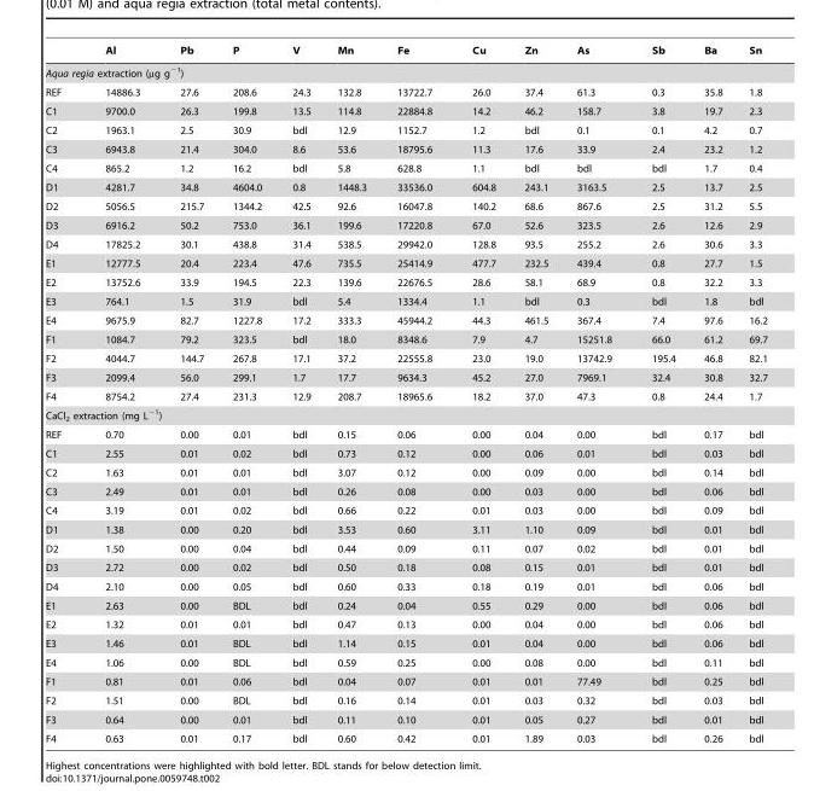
<table><thead><tr><td></td><td>Al</td><td>Pb</td><td>P</td><td>V</td><td>Mn</td><td>Fe</td><td>Cu</td><td>Zn</td><td>As</td><td>Sb</td><td>Ba</td><td>Sn</td></tr></thead><tbody><tr><td colspan="13">Aqua regia extraction (µg g<sup>−1</sup>)</td></tr><tr><td>REF</td><td>14886.3</td><td>27.6</td><td>208.6</td><td>24.3</td><td>132.8</td><td>13722.7</td><td>26.0</td><td>37.4</td><td>61.3</td><td>0.3</td><td>35.8</td><td>1.8</td></tr><tr><td>C1</td><td>9700.0</td><td>26.3</td><td>199.8</td><td>13.5</td><td>114.8</td><td>22884.8</td><td>14.2</td><td>46.2</td><td>158.7</td><td>3.8</td><td>19.7</td><td>2.3</td></tr><tr><td>C2</td><td>1963.1</td><td>2.5</td><td>30.9</td><td>bdl</td><td>12.9</td><td>1152.7</td><td>1.2</td><td>bdl</td><td>0.1</td><td>0.1</td><td>4.2</td><td>0.7</td></tr><tr><td>C3</td><td>6943.8</td><td>21.4</td><td>304.0</td><td>8.6</td><td>53.6</td><td>18795.6</td><td>11.3</td><td>17.6</td><td>33.9</td><td>2.4</td><td>23.2</td><td>1.2</td></tr><tr><td>C4</td><td>865.2</td><td>1.2</td><td>16.2</td><td>bdl</td><td>5.8</td><td>628.8</td><td>1.1</td><td>bdl</td><td>bdl</td><td>bdl</td><td>1.7</td><td>0.4</td></tr><tr><td>D1</td><td>4281.7</td><td>34.8</td><td>4604.0</td><td>0.8</td><td>1448.3</td><td>33536.0</td><td>604.8</td><td>243.1</td><td>3163.5</td><td>2.5</td><td>13.7</td><td>2.5</td></tr><tr><td>D2</td><td>5056.5</td><td>215.7</td><td>1344.2</td><td>42.5</td><td>92.6</td><td>16047.8</td><td>140.2</td><td>68.6</td><td>867.6</td><td>2.5</td><td>31.2</td><td>5.5</td></tr><tr><td>D3</td><td>6916.2</td><td>50.2</td><td>753.0</td><td>36.1</td><td>199.6</td><td>17220.8</td><td>67.0</td><td>52.6</td><td>323.5</td><td>2.6</td><td>12.6</td><td>2.9</td></tr><tr><td>D4</td><td>17825.2</td><td>30.1</td><td>438.8</td><td>31.4</td><td>538.5</td><td>29942.0</td><td>128.8</td><td>93.5</td><td>255.2</td><td>2.6</td><td>30.6</td><td>3.3</td></tr><tr><td>E1</td><td>12777.5</td><td>20.4</td><td>223.4</td><td>47.6</td><td>735.5</td><td>25414.9</td><td>477.7</td><td>232.5</td><td>439.4</td><td>0.8</td><td>27.7</td><td>1.5</td></tr><tr><td>E2</td><td>13752.6</td><td>33.9</td><td>194.5</td><td>22.3</td><td>139.6</td><td>22676.5</td><td>28.6</td><td>58.1</td><td>68.9</td><td>0.8</td><td>32.2</td><td>3.3</td></tr><tr><td>E3</td><td>764.1</td><td>1.5</td><td>31.9</td><td>bdl</td><td>5.4</td><td>1334.4</td><td>1.1</td><td>bdl</td><td>0.3</td><td>bdl</td><td>1.8</td><td>bdl</td></tr><tr><td>E4</td><td>9675.9</td><td>82.7</td><td>1227.8</td><td>17.2</td><td>333.3</td><td>45944.2</td><td>44.3</td><td>461.5</td><td>367.4</td><td>7.4</td><td>97.6</td><td>16.2</td></tr><tr><td>F1</td><td>1084.7</td><td>79.2</td><td>323.5</td><td>bdl</td><td>18.0</td><td>8348.6</td><td>7.9</td><td>4.7</td><td>15251.8</td><td>66.0</td><td>61.2</td><td>69.7</td></tr><tr><td>F2</td><td>4044.7</td><td>144.7</td><td>267.8</td><td>17.1</td><td>37.2</td><td>22555.8</td><td>23.0</td><td>19.0</td><td>13742.9</td><td>195.4</td><td>46.8</td><td>82.1</td></tr><tr><td>F3</td><td>2099.4</td><td>56.0</td><td>299.1</td><td>1.7</td><td>17.7</td><td>9634.3</td><td>45.2</td><td>27.0</td><td>7969.1</td><td>32.4</td><td>30.8</td><td>32.7</td></tr><tr><td>F4</td><td>8754.2</td><td>27.4</td><td>231.3</td><td>12.9</td><td>208.7</td><td>18965.6</td><td>18.2</td><td>37.0</td><td>47.3</td><td>0.8</td><td>24.4</td><td>1.7</td></tr><tr><td colspan="13">CaCl<sub>2</sub> extraction (mg L<sup>−1</sup>)</td></tr><tr><td>REF</td><td>0.70</td><td>0.00</td><td>0.01</td><td>bdl</td><td>0.15</td><td>0.06</td><td>0.00</td><td>0.04</td><td>0.00</td><td>bdl</td><td>0.17</td><td>bdl</td></tr><tr><td>C1</td><td>2.55</td><td>0.01</td><td>0.02</td><td>bdl</td><td>0.73</td><td>0.12</td><td>0.00</td><td>0.06</td><td>0.01</td><td>bdl</td><td>0.03</td><td>bdl</td></tr><tr><td>C2</td><td>1.63</td><td>0.01</td><td>0.01</td><td>bdl</td><td>3.07</td><td>0.12</td><td>0.00</td><td>0.09</td><td>0.00</td><td>bdl</td><td>0.14</td><td>bdl</td></tr><tr><td>C3</td><td>2.49</td><td>0.01</td><td>0.01</td><td>bdl</td><td>0.26</td><td>0.08</td><td>0.00</td><td>0.03</td><td>0.00</td><td>bdl</td><td>0.06</td><td>bdl</td></tr><tr><td>C4</td><td>3.19</td><td>0.01</td><td>0.02</td><td>bdl</td><td>0.66</td><td>0.22</td><td>0.01</td><td>0.03</td><td>0.00</td><td>bdl</td><td>0.09</td><td>bdl</td></tr><tr><td>D1</td><td>1.38</td><td>0.00</td><td>0.20</td><td>bdl</td><td>3.53</td><td>0.60</td><td>3.11</td><td>1.10</td><td>0.09</td><td>bdl</td><td>0.01</td><td>bdl</td></tr><tr><td>D2</td><td>1.50</td><td>0.00</td><td>0.04</td><td>bdl</td><td>0.44</td><td>0.09</td><td>0.11</td><td>0.07</td><td>0.02</td><td>bdl</td><td>0.01</td><td>bdl</td></tr><tr><td>D3</td><td>2.72</td><td>0.00</td><td>0.02</td><td>bdl</td><td>0.50</td><td>0.18</td><td>0.08</td><td>0.15</td><td>0.01</td><td>bdl</td><td>0.01</td><td>bdl</td></tr><tr><td>D4</td><td>2.10</td><td>0.00</td><td>0.05</td><td>bdl</td><td>0.60</td><td>0.33</td><td>0.18</td><td>0.19</td><td>0.01</td><td>bdl</td><td>0.06</td><td>bdl</td></tr><tr><td>E1</td><td>2.63</td><td>0.00</td><td>BDL</td><td>bdl</td><td>0.24</td><td>0.04</td><td>0.55</td><td>0.29</td><td>0.00</td><td>bdl</td><td>0.06</td><td>bdl</td></tr><tr><td>E2</td><td>1.32</td><td>0.01</td><td>0.01</td><td>bdl</td><td>0.47</td><td>0.13</td><td>0.00</td><td>0.04</td><td>0.00</td><td>bdl</td><td>0.06</td><td>bdl</td></tr><tr><td>E3</td><td>1.46</td><td>0.01</td><td>BDL</td><td>bdl</td><td>1.14</td><td>0.15</td><td>0.01</td><td>0.04</td><td>0.00</td><td>bdl</td><td>0.06</td><td>bdl</td></tr><tr><td>E4</td><td>1.06</td><td>0.00</td><td>BDL</td><td>bdl</td><td>0.59</td><td>0.25</td><td>0.00</td><td>0.08</td><td>0.00</td><td>bdl</td><td>0.11</td><td>bdl</td></tr><tr><td>F1</td><td>0.81</td><td>0.01</td><td>0.06</td><td>bdl</td><td>0.04</td><td>0.07</td><td>0.01</td><td>0.01</td><td>77.49</td><td>bdl</td><td>0.25</td><td>bdl</td></tr><tr><td>F2</td><td>1.51</td><td>0.00</td><td>BDL</td><td>bdl</td><td>0.16</td><td>0.14</td><td>0.01</td><td>0.03</td><td>0.32</td><td>bdl</td><td>0.03</td><td>bdl</td></tr><tr><td>F3</td><td>0.64</td><td>0.00</td><td>0.01</td><td>bdl</td><td>0.11</td><td>0.10</td><td>0.01</td><td>0.05</td><td>0.27</td><td>bdl</td><td>0.01</td><td>bdl</td></tr><tr><td>F4</td><td>0.63</td><td>0.01</td><td>0.17</td><td>bdl</td><td>0.60</td><td>0.42</td><td>0.01</td><td>1.89</td><td>0.03</td><td>bdl</td><td>0.26</td><td>bdl</td></tr></tbody></table>